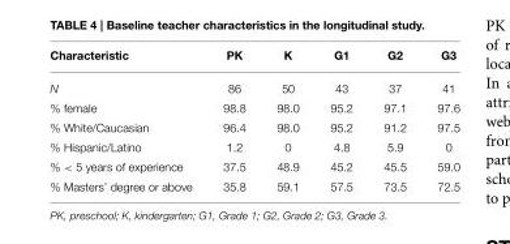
<table><thead><tr><td>Characteristic</td><td>PK</td><td>K</td><td>G1</td><td>G2</td><td>G3</td></tr></thead><tbody><tr><td>N</td><td>86</td><td>50</td><td>43</td><td>37</td><td>41</td></tr><tr><td>% female</td><td>98.8</td><td>98.0</td><td>95.2</td><td>97.1</td><td>97.6</td></tr><tr><td>% White/Caucasian</td><td>96.4</td><td>98.0</td><td>95.2</td><td>91.2</td><td>97.5</td></tr><tr><td>% Hispanic/Latino</td><td>1.2</td><td>0</td><td>4.8</td><td>5.9</td><td>0</td></tr><tr><td>% &lt; 5 years of experience</td><td>37.5</td><td>48.9</td><td>45.2</td><td>45.5</td><td>59.0</td></tr><tr><td>% Masters’ degree or above</td><td>35.8</td><td>59.1</td><td>57.5</td><td>73.5</td><td>72.5</td></tr></tbody></table>